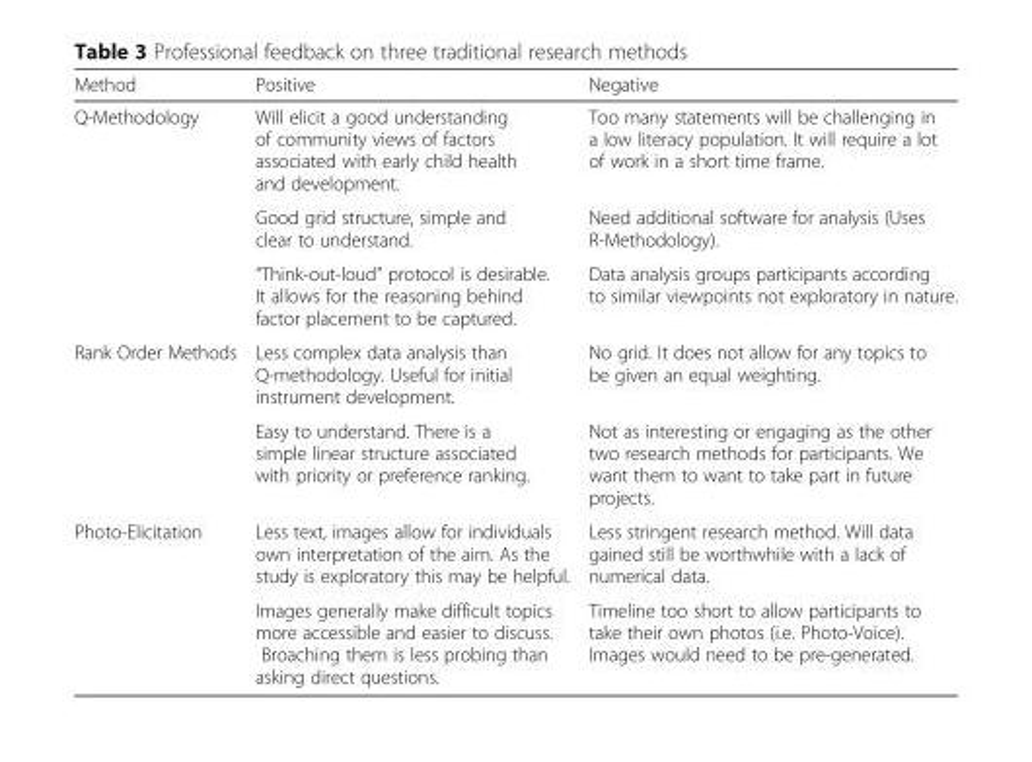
<table><thead><tr><td>Method</td><td>Positive</td><td>Negative</td></tr></thead><tbody><tr><td rowspan="3">Q-Methodology</td><td>Will elicit a good understanding of community views of factors associated with early child health and development.</td><td>Too many statements will be challenging in a low literacy population. It will require a lot of work in a short time frame.</td></tr><tr><td>Good grid structure, simple and clear to understand.</td><td>Need additional software for analysis (Uses R-Methodology).</td></tr><tr><td>“Think-out-loud” protocol is desirable. It allows for the reasoning behind factor placement to be captured.</td><td>Data analysis groups participants according to similar viewpoints not exploratory in nature.</td></tr><tr><td rowspan="2">Rank Order Methods</td><td>Less complex data analysis than Q-methodology. Useful for initial instrument development.</td><td>No grid. It does not allow for any topics to be given an equal weighting.</td></tr><tr><td>Easy to understand. There is a simple linear structure associated with priority or preference ranking.</td><td>Not as interesting or engaging as the other two research methods for participants. We want them to want to take part in future projects.</td></tr><tr><td rowspan="2">Photo-Elicitation</td><td>Less text, images allow for individuals own interpretation of the aim. As the study is exploratory this may be helpful.</td><td>Less stringent research method. Will data gained still be worthwhile with a lack of numerical data.</td></tr><tr><td>Images generally make difficult topics more accessible and easier to discuss. Broaching them is less probing than asking direct questions.</td><td>Timeline too short to allow participants to take their own photos (i.e. Photo-Voice). Images would need to be pre-generated.</td></tr></tbody></table>